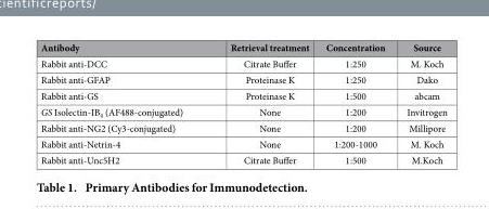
<table><thead><tr><td>Antibody</td><td>Retrieval treatment</td><td>Concentration</td><td>Source</td></tr></thead><tbody><tr><td>Rabbit anti-DCC</td><td>Citrate Buffer</td><td>1:250</td><td>M. Koch</td></tr><tr><td>Rabbit anti-GFAP</td><td>Proteinase K</td><td>1:250</td><td>Dako</td></tr><tr><td>Rabbit anti-GS</td><td>Proteinase K</td><td>1:500</td><td>abcam</td></tr><tr><td>GS Isolectin-IB<sub>4</sub> (AF488-conjugated)</td><td>None</td><td>1:200</td><td>Invitrogen</td></tr><tr><td>Rabbit anti-NG2 (Cy3-conjugated)</td><td>None</td><td>1:200</td><td>Millipore</td></tr><tr><td>Rabbit anti-Netrin-4</td><td>None</td><td>1:200-1000</td><td>M. Koch</td></tr><tr><td>Rabbit anti-Unc5H2</td><td>Citrate Buffer</td><td>1:500</td><td>M.Koch</td></tr></tbody></table>